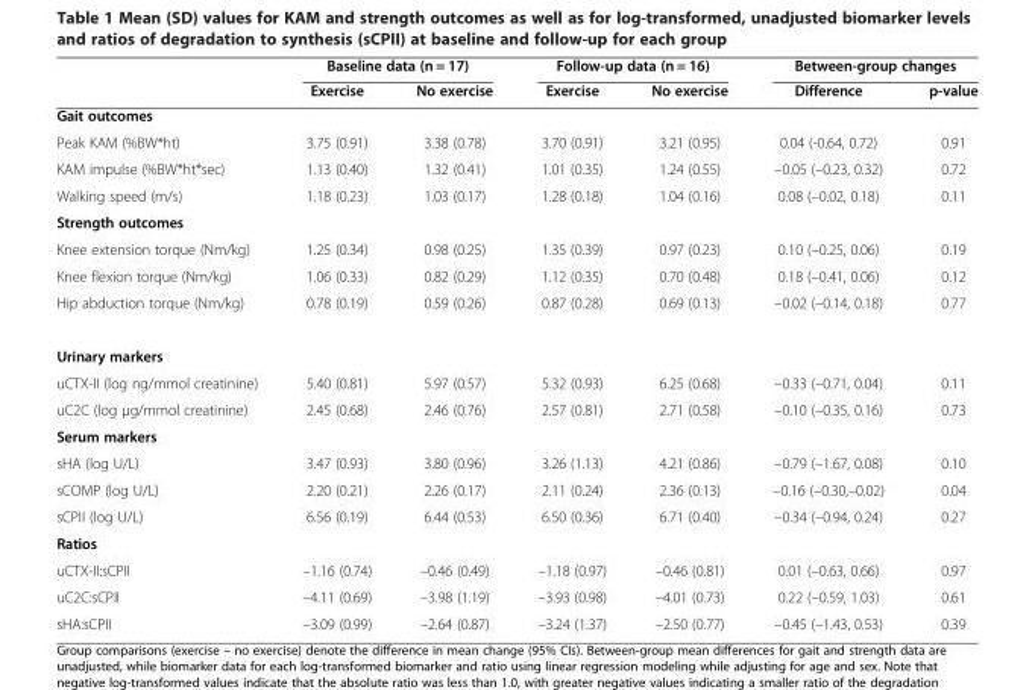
<table><thead><tr><td rowspan="2"></td><td colspan="2">Baseline data (n = 17)</td><td colspan="2">Follow-up data (n = 16)</td><td colspan="2">Between-group changes</td></tr><tr><td>Exercise</td><td>No exercise</td><td>Exercise</td><td>No exercise</td><td>Difference</td><td>p-value</td></tr></thead><tbody><tr><td colspan="7">Gait outcomes</td></tr><tr><td>Peak KAM (%BW*ht)</td><td>3.75 (0.91)</td><td>3.38 (0.78)</td><td>3.70 (0.91)</td><td>3.21 (0.95)</td><td>0.04 (-0.64, 0.72)</td><td>0.91</td></tr><tr><td>KAM impulse (%BW*ht*sec)</td><td>1.13 (0.40)</td><td>1.32 (0.41)</td><td>1.01 (0.35)</td><td>1.24 (0.55)</td><td>–0.05 (–0.23, 0.32)</td><td>0.72</td></tr><tr><td>Walking speed (m/s)</td><td>1.18 (0.23)</td><td>1.03 (0.17)</td><td>1.28 (0.18)</td><td>1.04 (0.16)</td><td>0.08 (–0.02, 0.18)</td><td>0.11</td></tr><tr><td colspan="7">Strength outcomes</td></tr><tr><td>Knee extension torque (Nm/kg)</td><td>1.25 (0.34)</td><td>0.98 (0.25)</td><td>1.35 (0.39)</td><td>0.97 (0.23)</td><td>0.10 (–0.25, 0.06)</td><td>0.19</td></tr><tr><td>Knee flexion torque (Nm/kg)</td><td>1.06 (0.33)</td><td>0.82 (0.29)</td><td>1.12 (0.35)</td><td>0.70 (0.48)</td><td>0.18 (–0.41, 0.06)</td><td>0.12</td></tr><tr><td>Hip abduction torque (Nm/kg)</td><td>0.78 (0.19)</td><td>0.59 (0.26)</td><td>0.87 (0.28)</td><td>0.69 (0.13)</td><td>–0.02 (–0.14, 0.18)</td><td>0.77</td></tr><tr><td colspan="7">Urinary markers</td></tr><tr><td>uCTX-II (log ng/mmol creatinine)</td><td>5.40 (0.81)</td><td>5.97 (0.57)</td><td>5.32 (0.93)</td><td>6.25 (0.68)</td><td>–0.33 (–0.71, 0.04)</td><td>0.11</td></tr><tr><td>uC2C (log μg/mmol creatinine)</td><td>2.45 (0.68)</td><td>2.46 (0.76)</td><td>2.57 (0.81)</td><td>2.71 (0.58)</td><td>–0.10 (–0.35, 0.16)</td><td>0.73</td></tr><tr><td colspan="7">Serum markers</td></tr><tr><td>sHA (log U/L)</td><td>3.47 (0.93)</td><td>3.80 (0.96)</td><td>3.26 (1.13)</td><td>4.21 (0.86)</td><td>–0.79 (–1.67, 0.08)</td><td>0.10</td></tr><tr><td>sCOMP (log U/L)</td><td>2.20 (0.21)</td><td>2.26 (0.17)</td><td>2.11 (0.24)</td><td>2.36 (0.13)</td><td>–0.16 (–0.30,–0.02)</td><td>0.04</td></tr><tr><td>sCPII (log U/L)</td><td>6.56 (0.19)</td><td>6.44 (0.53)</td><td>6.50 (0.36)</td><td>6.71 (0.40)</td><td>–0.34 (–0.94, 0.24)</td><td>0.27</td></tr><tr><td colspan="7">Ratios</td></tr><tr><td>uCTX-II:sCPII</td><td>–1.16 (0.74)</td><td>–0.46 (0.49)</td><td>–1.18 (0.97)</td><td>–0.46 (0.81)</td><td>0.01 (–0.63, 0.66)</td><td>0.97</td></tr><tr><td>uC2C:sCPII</td><td>–4.11 (0.69)</td><td>–3.98 (1.19)</td><td>–3.93 (0.98)</td><td>–4.01 (0.73)</td><td>0.22 (–0.59, 1.03)</td><td>0.61</td></tr><tr><td>sHA:sCPII</td><td>–3.09 (0.99)</td><td>–2.64 (0.87)</td><td>–3.24 (1.37)</td><td>–2.50 (0.77)</td><td>–0.45 (–1.43, 0.53)</td><td>0.39</td></tr></tbody></table>